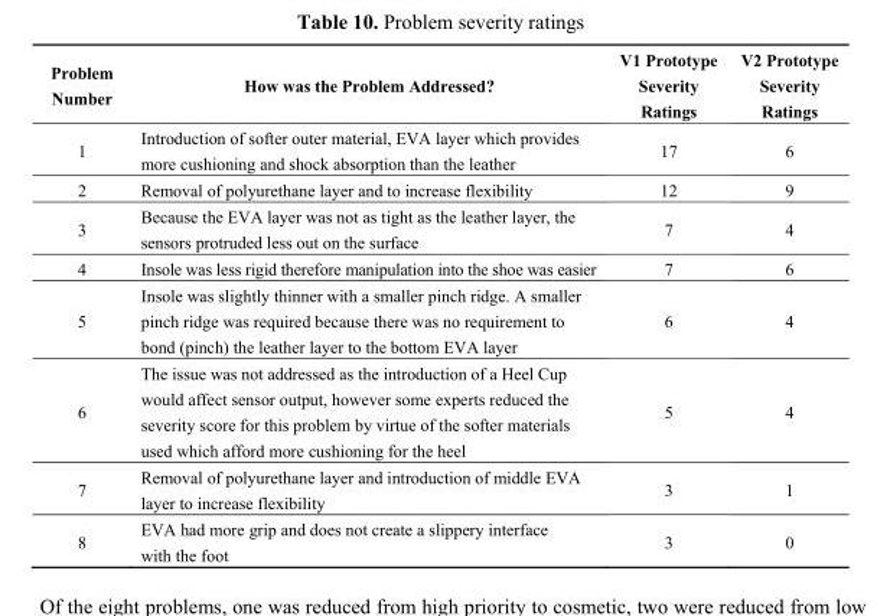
<table><thead><tr><td>Problem Number</td><td>How was the Problem Addressed?</td><td>V1 Prototype Severity Ratings</td><td>V2 Prototype Severity Ratings</td></tr></thead><tbody><tr><td>1</td><td>Introduction of softer outer material, EVA layer which provides more cushioning and shock absorption than the leather</td><td>17</td><td>6</td></tr><tr><td>2</td><td>Removal of polyurethane layer and to increase flexibility</td><td>12</td><td>9</td></tr><tr><td>3</td><td>Because the EVA layer was not as tight as the leather layer, the sensors protruded less out on the surface</td><td>7</td><td>4</td></tr><tr><td>4</td><td>Insole was less rigid therefore manipulation into the shoe was easier</td><td>7</td><td>6</td></tr><tr><td>5</td><td>Insole was slightly thinner with a smaller pinch ridge. A smaller pinch ridge was required because there was no requirement to bond (pinch) the leather layer to the bottom EVA layer</td><td>6</td><td>4</td></tr><tr><td>6</td><td>The issue was not addressed as the introduction of a Heel Cup would affect sensor output, however some experts reduced the severity score for this problem by virtue of the softer materials used which afford more cushioning for the heel</td><td>5</td><td>4</td></tr><tr><td>7</td><td>Removal of polyurethane layer and introduction of middle EVA layer to increase flexibility</td><td>3</td><td>1</td></tr><tr><td>8</td><td>EVA had more grip and does not create a slippery interface with the foot</td><td>3</td><td>0</td></tr></tbody></table>